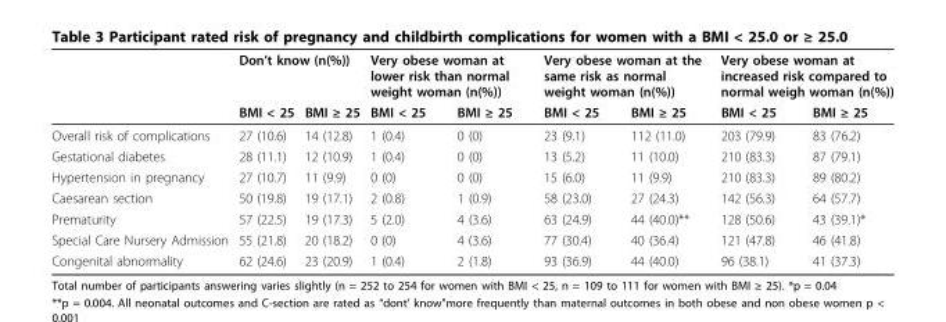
<table><thead><tr><td rowspan="2"></td><td colspan="2">Don’t know (n(%))</td><td colspan="2">Very obese woman at lower risk than normal weight woman (n(%))</td><td colspan="2">Very obese woman at the same risk as normal weight woman (n(%))</td><td colspan="2">Very obese woman at increased risk compared to normal weigh woman (n(%))</td></tr><tr><td>BMI &lt; 25</td><td>BMI ≥ 25</td><td>BMI &lt; 25</td><td>BMI ≥ 25</td><td>BMI &lt; 25</td><td>BMI ≥ 25</td><td>BMI &lt; 25</td><td>BMI ≥ 25</td></tr></thead><tbody><tr><td>Overall risk of complications</td><td>27 (10.6)</td><td>14 (12.8)</td><td>1 (0.4)</td><td>0 (0)</td><td>23 (9.1)</td><td>112 (11.0)</td><td>203 (79.9)</td><td>83 (76.2)</td></tr><tr><td>Gestational diabetes</td><td>28 (11.1)</td><td>12 (10.9)</td><td>1 (0.4)</td><td>0 (0)</td><td>13 (5.2)</td><td>11 (10.0)</td><td>210 (83.3)</td><td>87 (79.1)</td></tr><tr><td>Hypertension in pregnancy</td><td>27 (10.7)</td><td>11 (9.9)</td><td>0 (0)</td><td>0 (0)</td><td>15 (6.0)</td><td>11 (9.9)</td><td>210 (83.3)</td><td>89 (80.2)</td></tr><tr><td>Caesarean section</td><td>50 (19.8)</td><td>19 (17.1)</td><td>2 (0.8)</td><td>1 (0.9)</td><td>58 (23.0)</td><td>27 (24.3)</td><td>142 (56.3)</td><td>64 (57.7)</td></tr><tr><td>Prematurity</td><td>57 (22.5)</td><td>19 (17.3)</td><td>5 (2.0)</td><td>4 (3.6)</td><td>63 (24.9)</td><td>44 (40.0)**</td><td>128 (50.6)</td><td>43 (39.1)*</td></tr><tr><td>Special Care Nursery Admission</td><td>55 (21.8)</td><td>20 (18.2)</td><td>0 (0)</td><td>4 (3.6)</td><td>77 (30.4)</td><td>40 (36.4)</td><td>121 (47.8)</td><td>46 (41.8)</td></tr><tr><td>Congenital abnormality</td><td>62 (24.6)</td><td>23 (20.9)</td><td>1 (0.4)</td><td>2 (1.8)</td><td>93 (36.9)</td><td>44 (40.0)</td><td>96 (38.1)</td><td>41 (37.3)</td></tr></tbody></table>